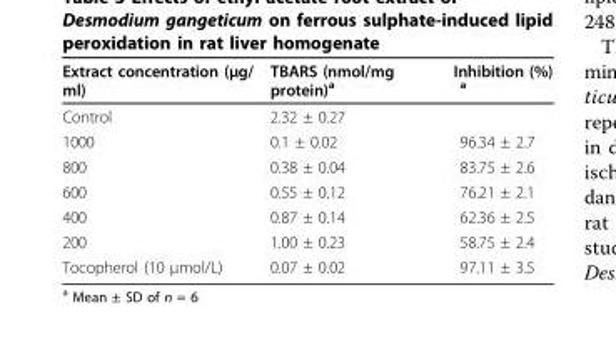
<table><thead><tr><td>Extract concentration (μg/ ml)</td><td>TBARS (nmol/mg protein)<sup>a</sup></td><td>Inhibition (%) <sup>a</sup></td></tr></thead><tbody><tr><td>Control</td><td>2.32 ± 0.27</td><td></td></tr><tr><td>1000</td><td>0.1 ± 0.02</td><td>96.34 ± 2.7</td></tr><tr><td>800</td><td>0.38 ± 0.04</td><td>83.75 ± 2.6</td></tr><tr><td>600</td><td>0.55 ± 0.12</td><td>76.21 ± 2.1</td></tr><tr><td>400</td><td>0.87 ± 0.14</td><td>62.36 ± 2.5</td></tr><tr><td>200</td><td>1.00 ± 0.23</td><td>58.75 ± 2.4</td></tr><tr><td>Tocopherol (10 μmol/L)</td><td>0.07 ± 0.02</td><td>97.11 ± 3.5</td></tr></tbody></table>